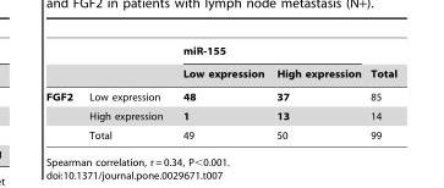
<table><thead><tr><td rowspan="2"></td><td rowspan="2"></td><td colspan="2">miR-155</td><td rowspan="2">Total</td></tr><tr><td>Low expression</td><td>High expression</td></tr></thead><tbody><tr><td rowspan="3">FGF2</td><td>Low expression</td><td>48</td><td>37</td><td>85</td></tr><tr><td>High expression</td><td>1</td><td>13</td><td>14</td></tr><tr><td>Total</td><td>49</td><td>50</td><td>99</td></tr></tbody></table>